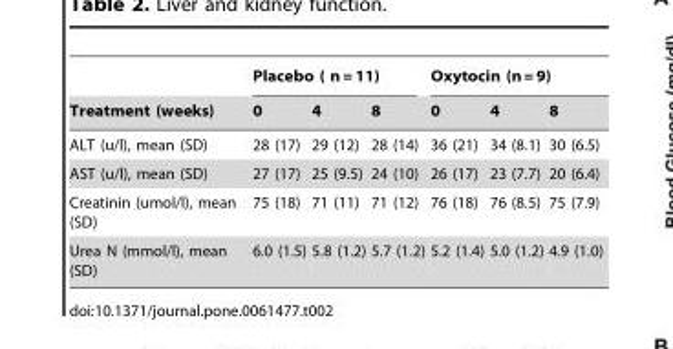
<table><thead><tr><td rowspan="2">Treatment (weeks)</td><td colspan="3">Placebo ( n = 11)</td><td colspan="3">Oxytocin (n = 9)</td></tr><tr><td>0</td><td>4</td><td>8</td><td>0</td><td>4</td><td>8</td></tr></thead><tbody><tr><td>ALT (u/l), mean (SD)</td><td>28 (17)</td><td>29 (12)</td><td>28 (14)</td><td>36 (21)</td><td>34 (8.1)</td><td>30 (6.5)</td></tr><tr><td>AST (u/l), mean (SD)</td><td>27 (17)</td><td>25 (9.5)</td><td>24 (10)</td><td>26 (17)</td><td>23 (7.7)</td><td>20 (6.4)</td></tr><tr><td>Creatinin (umol/l), mean (SD)</td><td>75 (18)</td><td>71 (11)</td><td>71 (12)</td><td>76 (18)</td><td>76 (8.5)</td><td>75 (7.9)</td></tr><tr><td>Urea N (mmol/l), mean (SD)</td><td>6.0 (1.5)</td><td>5.8 (1.2)</td><td>5.7 (1.2)</td><td>5.2 (1.4)</td><td>5.0 (1.2)</td><td>4.9 (1.0)</td></tr></tbody></table>